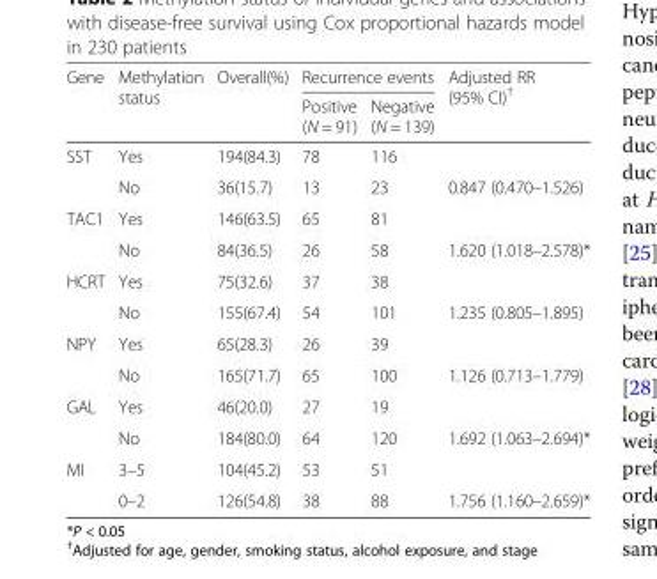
<table><thead><tr><td rowspan="2">Gene</td><td rowspan="2">Methylation status</td><td rowspan="2">Overall(%)</td><td colspan="2">Recurrence events</td><td rowspan="2">Adjusted RR (95% CI)<sup>†</sup></td></tr><tr><td>Positive (N = 91)</td><td>Negative (N = 139)</td></tr></thead><tbody><tr><td rowspan="2">SST</td><td>Yes</td><td>194(84.3)</td><td>78</td><td>116</td><td></td></tr><tr><td>No</td><td>36(15.7)</td><td>13</td><td>23</td><td>0.847 (0.470–1.526)</td></tr><tr><td rowspan="2">TAC1</td><td>Yes</td><td>146(63.5)</td><td>65</td><td>81</td><td></td></tr><tr><td>No</td><td>84(36.5)</td><td>26</td><td>58</td><td>1.620 (1.018–2.578)*</td></tr><tr><td rowspan="2">HCRT</td><td>Yes</td><td>75(32.6)</td><td>37</td><td>38</td><td></td></tr><tr><td>No</td><td>155(67.4)</td><td>54</td><td>101</td><td>1.235 (0.805–1.895)</td></tr><tr><td rowspan="2">NPY</td><td>Yes</td><td>65(28.3)</td><td>26</td><td>39</td><td></td></tr><tr><td>No</td><td>165(71.7)</td><td>65</td><td>100</td><td>1.126 (0.713–1.779)</td></tr><tr><td rowspan="2">GAL</td><td>Yes</td><td>46(20.0)</td><td>27</td><td>19</td><td></td></tr><tr><td>No</td><td>184(80.0)</td><td>64</td><td>120</td><td>1.692 (1.063–2.694)*</td></tr><tr><td rowspan="2">MI</td><td>3–5</td><td>104(45.2)</td><td>53</td><td>51</td><td></td></tr><tr><td>0–2</td><td>126(54.8)</td><td>38</td><td>88</td><td>1.756 (1.160–2.659)*</td></tr></tbody></table>